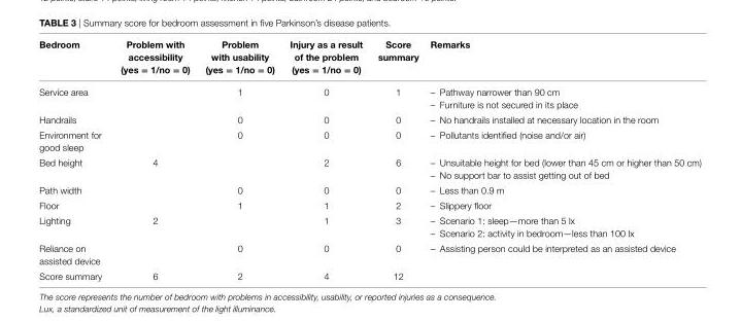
<table><thead><tr><td>Bedroom</td><td>Problem with accessibility (yes = 1/no = 0)</td><td>Problem with usability (yes = 1/no = 0)</td><td>injury as a result of the problem (yes = 1/no = 0)</td><td>score summary</td><td>remarks</td></tr></thead><tbody><tr><td>Service area</td><td></td><td>1</td><td>0</td><td>1</td><td>– Pathway narrower than 90 cm – Furniture is not secured in its place</td></tr><tr><td>Handrails</td><td></td><td>0</td><td>0</td><td>0</td><td>– No handrails installed at necessary location in the room</td></tr><tr><td>Environment for good sleep</td><td></td><td>0</td><td>0</td><td>0</td><td>– Pollutants identified (noise and/or air)</td></tr><tr><td>Bed height</td><td>4</td><td></td><td>2</td><td>6</td><td>– Unsuitable height for bed (lower than 45 cm or higher than 50 cm) – No support bar to assist getting out of bed</td></tr><tr><td>Path width</td><td></td><td>0</td><td>0</td><td>0</td><td>– Less than 0.9 m</td></tr><tr><td>Floor</td><td></td><td>1</td><td>1</td><td>2</td><td>– Slippery floor</td></tr><tr><td>Lighting</td><td>2</td><td></td><td>1</td><td>3</td><td>– Scenario 1: sleep—more than 5 lx – Scenario 2: activity in bedroom—less than 100 lx</td></tr><tr><td>Reliance on assisted device</td><td></td><td>0</td><td>0</td><td>0</td><td>– Assisting person could be interpreted as an assisted device</td></tr><tr><td>Score summary</td><td>6</td><td>2</td><td>4</td><td>12</td><td></td></tr></tbody></table>